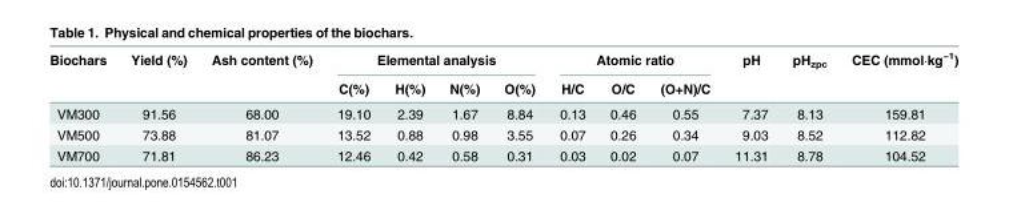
<table><thead><tr><td rowspan="2">Biochars</td><td rowspan="2">Yield (%)</td><td rowspan="2">Ash content (%)</td><td colspan="4">Elemental analysis</td><td colspan="3">Atomic ratio</td><td rowspan="2">pH</td><td rowspan="2">pH<sub>zpc</sub></td><td rowspan="2">CEC (mmol·kg<sup>−1</sup>)</td></tr><tr><td>C(%)</td><td>H(%)</td><td>N(%)</td><td>O(%)</td><td>H/C</td><td>O/C</td><td>(O+N)/C</td></tr></thead><tbody><tr><td>VM300</td><td>91.56</td><td>68.00</td><td>19.10</td><td>2.39</td><td>1.67</td><td>8.84</td><td>0.13</td><td>0.46</td><td>0.55</td><td>7.37</td><td>8.13</td><td>159.81</td></tr><tr><td>VM500</td><td>73.88</td><td>81.07</td><td>13.52</td><td>0.88</td><td>0.98</td><td>3.55</td><td>0.07</td><td>0.26</td><td>0.34</td><td>9.03</td><td>8.52</td><td>112.82</td></tr><tr><td>VM700</td><td>71.81</td><td>86.23</td><td>12.46</td><td>0.42</td><td>0.58</td><td>0.31</td><td>0.03</td><td>0.02</td><td>0.07</td><td>11.31</td><td>8.78</td><td>104.52</td></tr></tbody></table>